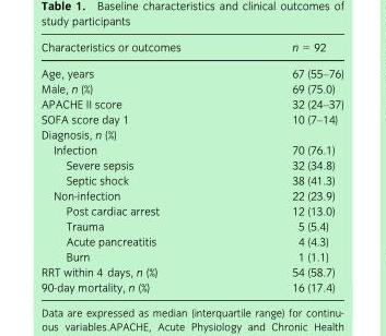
<table><thead><tr><td>Characteristics or outcomes</td><td>n = 92</td></tr></thead><tbody><tr><td>Age, years</td><td>67 (55–76)</td></tr><tr><td>Male, n (%)</td><td>69 (75.0)</td></tr><tr><td>APACHE II score</td><td>32 (24–37)</td></tr><tr><td>SOFA score day 1</td><td>10 (7–14)</td></tr><tr><td colspan="2">Diagnosis, n (%)</td></tr><tr><td>Infection</td><td>70 (76.1)</td></tr><tr><td>Severe sepsis</td><td>32 (34.8)</td></tr><tr><td>Septic shock</td><td>38 (41.3)</td></tr><tr><td>Non-infection</td><td>22 (23.9)</td></tr><tr><td>Post cardiac arrest</td><td>12 (13.0)</td></tr><tr><td>Trauma</td><td>5 (5.4)</td></tr><tr><td>Acute pancreatitis</td><td>4 (4.3)</td></tr><tr><td>Burn</td><td>1 (1.1)</td></tr><tr><td>RRT within 4 days, n (%)</td><td>54 (58.7)</td></tr><tr><td>90-day mortality, n (%)</td><td>16 (17.4)</td></tr></tbody></table>